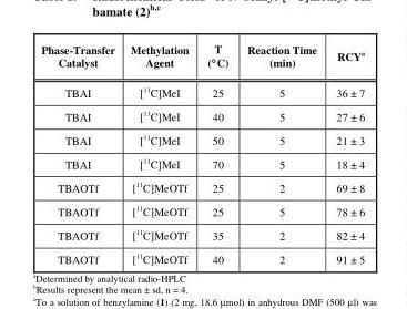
<table><thead><tr><td>Phase-Transfer Catalyst</td><td>Methylation Agent</td><td>T (°C)</td><td>Reaction Time (min)</td><td>RCY<sup>a</sup></td></tr></thead><tbody><tr><td>TBAI</td><td>[<sup>11</sup>C]MeI</td><td>25</td><td>5</td><td>36 ± 7</td></tr><tr><td>TBAI</td><td>[<sup>11</sup>C]MeI</td><td>40</td><td>5</td><td>27 ± 6</td></tr><tr><td>TBAI</td><td>[<sup>11</sup>C]MeI</td><td>50</td><td>5</td><td>21 ± 3</td></tr><tr><td>TBAI</td><td>[<sup>11</sup>C]MeI</td><td>70</td><td>5</td><td>18 ± 4</td></tr><tr><td>TBAOTf</td><td>[<sup>11</sup>C]MeOTf</td><td>25</td><td>2</td><td>69 ± 8</td></tr><tr><td>TBAOTf</td><td>[<sup>11</sup>C]MeOTf</td><td>25</td><td>5</td><td>78 ± 6</td></tr><tr><td>TBAOTf</td><td>[<sup>11</sup>C]MeOTf</td><td>35</td><td>2</td><td>82 ± 4</td></tr><tr><td>TBAOTf</td><td>[<sup>11</sup>C]MeOTf</td><td>40</td><td>2</td><td>91 ± 5</td></tr></tbody></table>